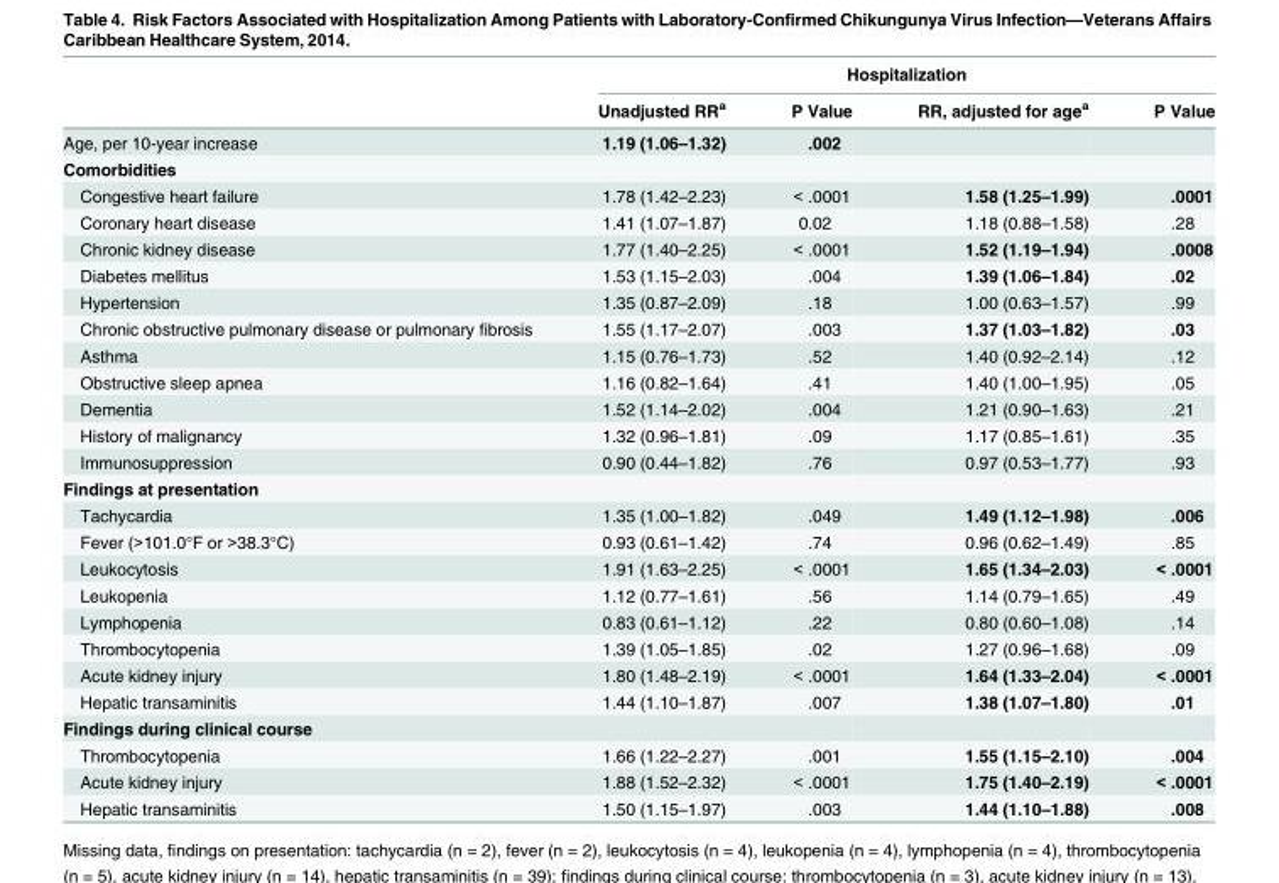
<table><thead><tr><td rowspan="2"></td><td colspan="4">Hospitalization</td></tr><tr><td>Unadjusted RR<sup>a</sup></td><td>P Value</td><td>RR, adjusted for age<sup>a</sup></td><td>P Value</td></tr></thead><tbody><tr><td>Age, per 10-year increase</td><td>1.19 (1.06–1.32)</td><td>.002</td><td></td><td></td></tr><tr><td colspan="5">Comorbidities</td></tr><tr><td>Congestive heart failure</td><td>1.78 (1.42–2.23)</td><td>&lt; .0001</td><td>1.58 (1.25–1.99)</td><td>.0001</td></tr><tr><td>Coronary heart disease</td><td>1.41 (1.07–1.87)</td><td>0.02</td><td>1.18 (0.88–1.58)</td><td>.28</td></tr><tr><td>Chronic kidney disease</td><td>1.77 (1.40–2.25)</td><td>&lt; .0001</td><td>1.52 (1.19–1.94)</td><td>.0008</td></tr><tr><td>Diabetes mellitus</td><td>1.53 (1.15–2.03)</td><td>.004</td><td>1.39 (1.06–1.84)</td><td>.02</td></tr><tr><td>Hypertension</td><td>1.35 (0.87–2.09)</td><td>.18</td><td>1.00 (0.63–1.57)</td><td>.99</td></tr><tr><td>Chronic obstructive pulmonary disease or pulmonary fibrosis</td><td>1.55 (1.17–2.07)</td><td>.003</td><td>1.37 (1.03–1.82)</td><td>.03</td></tr><tr><td>Asthma</td><td>1.15 (0.76–1.73)</td><td>.52</td><td>1.40 (0.92–2.14)</td><td>.12</td></tr><tr><td>Obstructive sleep apnea</td><td>1.16 (0.82–1.64)</td><td>.41</td><td>1.40 (1.00–1.95)</td><td>.05</td></tr><tr><td>Dementia</td><td>1.52 (1.14–2.02)</td><td>.004</td><td>1.21 (0.90–1.63)</td><td>.21</td></tr><tr><td>History of malignancy</td><td>1.32 (0.96–1.81)</td><td>.09</td><td>1.17 (0.85–1.61)</td><td>.35</td></tr><tr><td>Immunosuppression</td><td>0.90 (0.44–1.82)</td><td>.76</td><td>0.97 (0.53–1.77)</td><td>.93</td></tr><tr><td colspan="5">Findings at presentation</td></tr><tr><td>Tachycardia</td><td>1.35 (1.00–1.82)</td><td>.049</td><td>1.49 (1.12–1.98)</td><td>.006</td></tr><tr><td>Fever (&gt;101.0°F or &gt;38.3°C)</td><td>0.93 (0.61–1.42)</td><td>.74</td><td>0.96 (0.62–1.49)</td><td>.85</td></tr><tr><td>Leukocytosis</td><td>1.91 (1.63–2.25)</td><td>&lt; .0001</td><td>1.65 (1.34–2.03)</td><td>&lt; .0001</td></tr><tr><td>Leukopenia</td><td>1.12 (0.77–1.61)</td><td>.56</td><td>1.14 (0.79–1.65)</td><td>.49</td></tr><tr><td>Lymphopenia</td><td>0.83 (0.61–1.12)</td><td>.22</td><td>0.80 (0.60–1.08)</td><td>.14</td></tr><tr><td>Thrombocytopenia</td><td>1.39 (1.05–1.85)</td><td>.02</td><td>1.27 (0.96–1.68)</td><td>.09</td></tr><tr><td>Acute kidney injury</td><td>1.80 (1.48–2.19)</td><td>&lt; .0001</td><td>1.64 (1.33–2.04)</td><td>&lt; .0001</td></tr><tr><td>Hepatic transaminitis</td><td>1.44 (1.10–1.87)</td><td>.007</td><td>1.38 (1.07–1.80)</td><td>.01</td></tr><tr><td colspan="5">Findings during clinical course</td></tr><tr><td>Thrombocytopenia</td><td>1.66 (1.22–2.27)</td><td>.001</td><td>1.55 (1.15–2.10)</td><td>.004</td></tr><tr><td>Acute kidney injury</td><td>1.88 (1.52–2.32)</td><td>&lt; .0001</td><td>1.75 (1.40–2.19)</td><td>&lt; .0001</td></tr><tr><td>Hepatic transaminitis</td><td>1.50 (1.15–1.97)</td><td>.003</td><td>1.44 (1.10–1.88)</td><td>.008</td></tr></tbody></table>